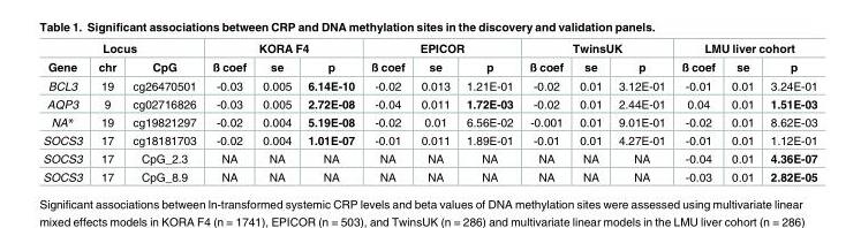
<table><thead><tr><td colspan="3">Locus</td><td colspan="3">KORA F4</td><td colspan="3">EPICOR</td><td colspan="3">TwinsUK</td><td colspan="3">LMU liver cohort</td></tr><tr><td>Gene</td><td>chr</td><td>CpG</td><td>ß coef</td><td>se</td><td>p</td><td>ß coef</td><td>se</td><td>p</td><td>ß coef</td><td>se</td><td>p</td><td>ß coef</td><td>se</td><td>p</td></tr></thead><tbody><tr><td>BCL3</td><td>19</td><td>cg26470501</td><td>-0.03</td><td>0.005</td><td>6.14E-10</td><td>-0.02</td><td>0.013</td><td>1.21E-01</td><td>-0.02</td><td>0.01</td><td>3.12E-01</td><td>-0.01</td><td>0.01</td><td>3.24E-01</td></tr><tr><td>AQP3</td><td>9</td><td>cg02716826</td><td>-0.03</td><td>0.005</td><td>2.72E-08</td><td>-0.04</td><td>0.011</td><td>1.72E-03</td><td>-0.02</td><td>0.01</td><td>2.44E-01</td><td>0.04</td><td>0.01</td><td>1.51E-03</td></tr><tr><td>NA*</td><td>19</td><td>cg19821297</td><td>-0.02</td><td>0.004</td><td>5.19E-08</td><td>-0.02</td><td>0.01</td><td>6.56E-02</td><td>-0.001</td><td>0.01</td><td>9.01E-01</td><td>-0.02</td><td>0.01</td><td>8.62E-03</td></tr><tr><td>SOCS3</td><td>17</td><td>cg18181703</td><td>-0.02</td><td>0.004</td><td>1.01E-07</td><td>-0.01</td><td>0.011</td><td>1.89E-01</td><td>-0.01</td><td>0.01</td><td>4.27E-01</td><td>-0.01</td><td>0.01</td><td>1.12E-01</td></tr><tr><td>SOCS3</td><td>17</td><td>CpG_2.3</td><td>NA</td><td>NA</td><td>NA</td><td>NA</td><td>NA</td><td>NA</td><td>NA</td><td>NA</td><td>NA</td><td>-0.04</td><td>0.01</td><td>4.36E-07</td></tr><tr><td>SOCS3</td><td>17</td><td>CpG_8.9</td><td>NA</td><td>NA</td><td>NA</td><td>NA</td><td>NA</td><td>NA</td><td>NA</td><td>NA</td><td>NA</td><td>-0.03</td><td>0.01</td><td>2.82E-05</td></tr></tbody></table>